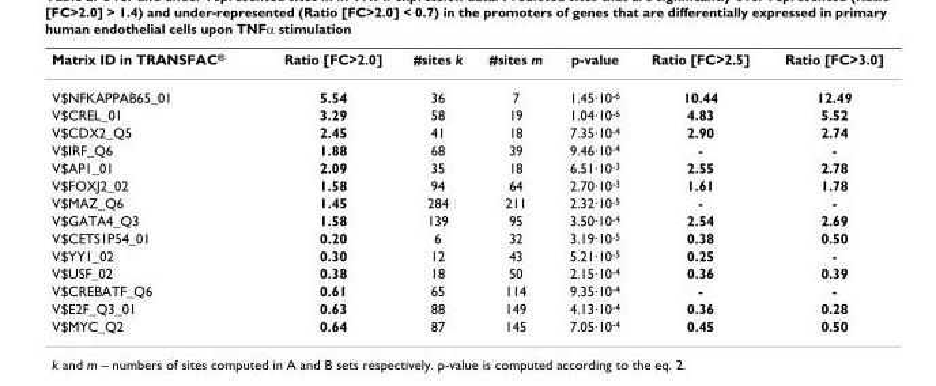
<table><thead><tr><td>Matrix ID in TRANSFAC®</td><td>Ratio [FC&gt;2.0]</td><td>#sites k</td><td>#sites m</td><td>p-value</td><td>Ratio [FC&gt;2.5]</td><td>Ratio [FC&gt;3.0]</td></tr></thead><tbody><tr><td>V$NFKAPPAB65_01</td><td>5.54</td><td>36</td><td>7</td><td>1.45·10-6</td><td>10.44</td><td>12.49</td></tr><tr><td>V$CREL_01</td><td>3.29</td><td>58</td><td>19</td><td>1.04·10-6</td><td>4.83</td><td>5.52</td></tr><tr><td>V$CDX2_Q5</td><td>2.45</td><td>41</td><td>18</td><td>7.35·10-4</td><td>2.90</td><td>2.74</td></tr><tr><td>V$IRF_Q6</td><td>1.88</td><td>68</td><td>39</td><td>9.46·10-4</td><td>-</td><td>-</td></tr><tr><td>V$AP1_01</td><td>2.09</td><td>35</td><td>18</td><td>6.51·10-3</td><td>2.55</td><td>2.78</td></tr><tr><td>V$FOXJ2_02</td><td>1.58</td><td>94</td><td>64</td><td>2.70·10-3</td><td>1.61</td><td>1.78</td></tr><tr><td>V$MAZ_Q6</td><td>1.45</td><td>284</td><td>211</td><td>2.32·10-5</td><td>-</td><td>-</td></tr><tr><td>V$GATA4_Q3</td><td>1.58</td><td>139</td><td>95</td><td>3.50·10-4</td><td>2.54</td><td>2.69</td></tr><tr><td>V$CETS1P54_01</td><td>0.20</td><td>6</td><td>32</td><td>3.19·10-5</td><td>0.38</td><td>0.50</td></tr><tr><td>V$YY1_02</td><td>0.30</td><td>12</td><td>43</td><td>5.21·10-5</td><td>0.25</td><td>-</td></tr><tr><td>V$USF_02</td><td>0.38</td><td>18</td><td>50</td><td>2.15·10-4</td><td>0.36</td><td>0.39</td></tr><tr><td>V$CREBATF_Q6</td><td>0.61</td><td>65</td><td>114</td><td>9.35·10-4</td><td>-</td><td>-</td></tr><tr><td>V$E2F_Q3_01</td><td>0.63</td><td>88</td><td>149</td><td>4.13·10-4</td><td>0.36</td><td>0.28</td></tr><tr><td>V$MYC_Q2</td><td>0.64</td><td>87</td><td>145</td><td>7.05·10-4</td><td>0.45</td><td>0.50</td></tr></tbody></table>